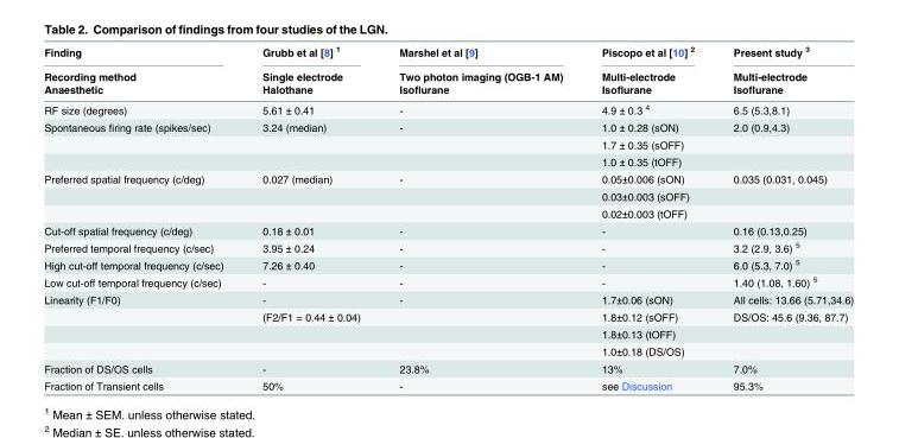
<table><thead><tr><td rowspan="3">Finding Recording method Anaesthetic</td><td rowspan="3">Grubb et al [8] <sup>1</sup> Single electrode Halothane</td><td rowspan="3">Marshel et al [9] Two photon imaging (OGB-1 AM) Isoflurane</td><td rowspan="3">Piscopo et al [10] <sup>2</sup> Multi-electrode Isoflurane</td><td rowspan="3">Present study <sup>3</sup> Multi-electrode Isoflurane</td></tr><tr></tr><tr></tr></thead><tbody><tr><td>RF size (degrees)</td><td>5.61 ± 0.41</td><td>-</td><td>4.9 ± 0.3 <sup>4</sup></td><td>6.5 (5.3,8.1)</td></tr><tr><td rowspan="3">Spontaneous firing rate (spikes/sec)</td><td>3.24 (median)</td><td>-</td><td>1.0 ± 0.28 (sON)</td><td>2.0 (0.9,4.3)</td></tr><tr><td></td><td></td><td>1.7 ± 0.35 (sOFF)</td><td></td></tr><tr><td></td><td></td><td>1.0 ± 0.35 (tOFF)</td><td></td></tr><tr><td rowspan="3">Preferred spatial frequency (c/deg)</td><td>0.027 (median)</td><td>-</td><td>0.05±0.006 (sON)</td><td>0.035 (0.031, 0.045)</td></tr><tr><td></td><td></td><td>0.03±0.003 (sOFF)</td><td></td></tr><tr><td></td><td></td><td>0.02±0.003 (tOFF)</td><td></td></tr><tr><td>Cut-off spatial frequency (c/deg)</td><td>0.18 ± 0.01</td><td>-</td><td>-</td><td>0.16 (0.13,0.25)</td></tr><tr><td>Preferred temporal frequency (c/sec)</td><td>3.95 ± 0.24</td><td>-</td><td>-</td><td>3.2 (2.9, 3.6) <sup>5</sup></td></tr><tr><td>High cut-off temporal frequency (c/sec)</td><td>7.26 ± 0.40</td><td>-</td><td>-</td><td>6.0 (5.3, 7.0) <sup>5</sup></td></tr><tr><td>Low cut-off temporal frequency (c/sec)</td><td>-</td><td>-</td><td>-</td><td>1.40 (1.08, 1.60) <sup>5</sup></td></tr><tr><td rowspan="4">Linearity (F1/F0)</td><td>-</td><td>-</td><td>1.7±0.06 (sON)</td><td>All cells: 13.66 (5.71,34.6)</td></tr><tr><td>(F2/F1 = 0.44 ± 0.04)</td><td></td><td>1.8±0.12 (sOFF)</td><td>DS/OS: 45.6 (9.36, 87.7)</td></tr><tr><td></td><td></td><td>1.8±0.13 (tOFF)</td><td></td></tr><tr><td></td><td></td><td>1.0±0.18 (DS/OS)</td><td></td></tr><tr><td>Fraction of DS/OS cells</td><td>-</td><td>23.8%</td><td>13%</td><td>7.0%</td></tr><tr><td>Fraction of Transient cells</td><td>50%</td><td>-</td><td>see Discussion</td><td>95.3%</td></tr></tbody></table>